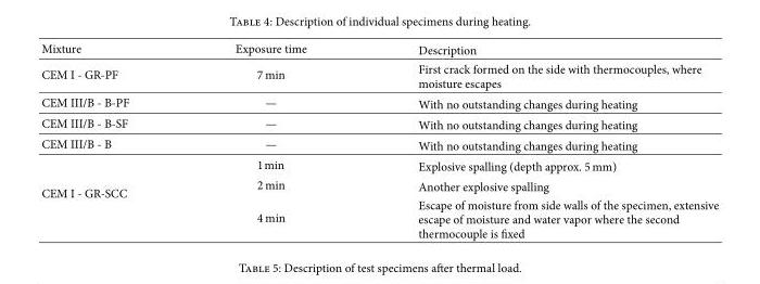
<table><tbody><tr><td>Mixture</td><td>Exposure time</td><td>Description</td></tr><tr><td>CEM I - GR-PF</td><td>7 min</td><td>First crack formed on the side with thermocouples, where moisture escapes</td></tr><tr><td>CEM III/B - B-PF</td><td>—</td><td>With no outstanding changes during heating</td></tr><tr><td>CEM III/B - B-SF</td><td>—</td><td>With no outstanding changes during heating</td></tr><tr><td>CEM III/B - B</td><td>—</td><td>With no outstanding changes during heating</td></tr><tr><td rowspan="3">CEM I - GR-SCC</td><td>1 min</td><td>Explosive spalling (depth approx. 5 mm)</td></tr><tr><td>2 min</td><td>Another explosive spalling</td></tr><tr><td>4 min</td><td>Escape of moisture from side walls of the specimen, extensive escape of moisture and water vapor where the second thermocouple is fixed</td></tr></tbody></table>